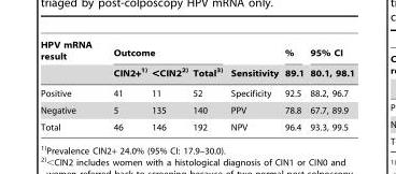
<table><thead><tr><td rowspan="2">HPV mRNA result</td><td colspan="3">Outcome</td><td rowspan="2">Sensitivity</td><td rowspan="2">% 89.1</td><td rowspan="2">95% CI 80.1, 98.1</td></tr><tr><td>CIN2+1)</td><td>&lt;CIN22)</td><td>Total3)</td></tr></thead><tbody><tr><td>Positive</td><td>41</td><td>11</td><td>52</td><td>Specificity</td><td>92.5</td><td>88.2, 96.7</td></tr><tr><td>Negative</td><td>5</td><td>135</td><td>140</td><td>PPV</td><td>78.8</td><td>67.7, 89.9</td></tr><tr><td>Total</td><td>46</td><td>146</td><td>192</td><td>NPV</td><td>96.4</td><td>93.3, 99.5</td></tr></tbody></table>